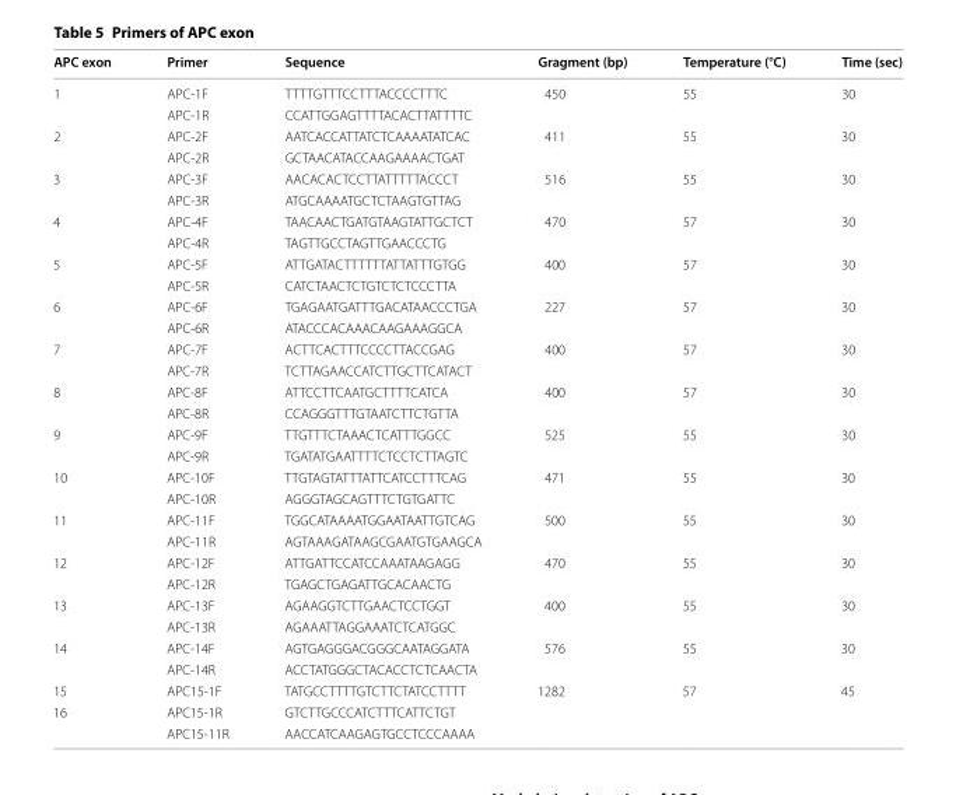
<table><thead><tr><td>APC exon</td><td>Primer</td><td>Sequence</td><td>Gragment (bp)</td><td>Temperature (°C)</td><td>Time (sec)</td></tr></thead><tbody><tr><td rowspan="2">1</td><td>APC-1F</td><td>TTTTGTTTCCTTTACCCCTTTC</td><td rowspan="2">450</td><td rowspan="2">55</td><td rowspan="2">30</td></tr><tr><td>APC-1R</td><td>CCATTGGAGTTTTACACTTATTTTC</td></tr><tr><td rowspan="2">2</td><td>APC-2F</td><td>AATCACCATTATCTCAAAATATCAC</td><td rowspan="2">411</td><td rowspan="2">55</td><td rowspan="2">30</td></tr><tr><td>APC-2R</td><td>GCTAACATACCAAGAAAACTGAT</td></tr><tr><td rowspan="2">3</td><td>APC-3F</td><td>AACACACTCCTTATTTTTACCCT</td><td rowspan="2">516</td><td rowspan="2">55</td><td rowspan="2">30</td></tr><tr><td>APC-3R</td><td>ATGCAAAATGCTCTAAGTGTTAG</td></tr><tr><td rowspan="2">4</td><td>APC-4F</td><td>TAACAACTGATGTAAGTATTGCTCT</td><td rowspan="2">470</td><td rowspan="2">57</td><td rowspan="2">30</td></tr><tr><td>APC-4R</td><td>TAGTTGCCTAGTTGAACCCTG</td></tr><tr><td rowspan="2">5</td><td>APC-5F</td><td>ATTGATACTTTTTTATTATTTGTGG</td><td rowspan="2">400</td><td rowspan="2">57</td><td rowspan="2">30</td></tr><tr><td>APC-5R</td><td>CATCTAACTCTGTCTCTCCCTTA</td></tr><tr><td rowspan="2">6</td><td>APC-6F</td><td>TGAGAATGATTTGACATAACCCTGA</td><td rowspan="2">227</td><td rowspan="2">57</td><td rowspan="2">30</td></tr><tr><td>APC-6R</td><td>ATACCCACAAACAAGAAAGGCA</td></tr><tr><td rowspan="2">7</td><td>APC-7F</td><td>ACTTCACTTTCCCCTTACCGAG</td><td rowspan="2">400</td><td rowspan="2">57</td><td rowspan="2">30</td></tr><tr><td>APC-7R</td><td>TCTTAGAACCATCTTGCTTCATACT</td></tr><tr><td rowspan="2">8</td><td>APC-8F</td><td>ATTCCTTCAATGCTTTTCATCA</td><td rowspan="2">400</td><td rowspan="2">57</td><td rowspan="2">30</td></tr><tr><td>APC-8R</td><td>CCAGGGTTTGTAATCTTCTGTTA</td></tr><tr><td rowspan="2">9</td><td>APC-9F</td><td>TTGTTTCTAAACTCATTTGGCC</td><td rowspan="2">525</td><td rowspan="2">55</td><td rowspan="2">30</td></tr><tr><td>APC-9R</td><td>TGATATGAATTTTCTCCTCTTAGTC</td></tr><tr><td rowspan="2">10</td><td>APC-10F</td><td>TTGTAGTATTTATTCATCCTTTCAG</td><td rowspan="2">471</td><td rowspan="2">55</td><td rowspan="2">30</td></tr><tr><td>APC-10R</td><td>AGGGTAGCAGTTTCTGTGATTC</td></tr><tr><td rowspan="2">11</td><td>APC-11F</td><td>TGGCATAAAATGGAATAATTGTCAG</td><td rowspan="2">500</td><td rowspan="2">55</td><td rowspan="2">30</td></tr><tr><td>APC-11R</td><td>AGTAAAGATAAGCGAATGTGAAGCA</td></tr><tr><td rowspan="2">12</td><td>APC-12F</td><td>ATTGATTCCATCCAAATAAGAGG</td><td rowspan="2">470</td><td rowspan="2">55</td><td rowspan="2">30</td></tr><tr><td>APC-12R</td><td>TGAGCTGAGATTGCACAACTG</td></tr><tr><td rowspan="2">13</td><td>APC-13F</td><td>AGAAGGTCTTGAACTCCTGGT</td><td rowspan="2">400</td><td rowspan="2">55</td><td rowspan="2">30</td></tr><tr><td>APC-13R</td><td>AGAAATTAGGAAATCTCATGGC</td></tr><tr><td rowspan="2">14</td><td>APC-14F</td><td>AGTGAGGGACGGGCAATAGGATA</td><td rowspan="2">576</td><td rowspan="2">55</td><td rowspan="2">30</td></tr><tr><td>APC-14R</td><td>ACCTATGGGCTACACCTCTCAACTA</td></tr><tr><td>15</td><td>APC15-1F</td><td>TATGCCTTTTGTCTTCTATCCTTTT</td><td>1282</td><td>57</td><td>45</td></tr><tr><td rowspan="2">16</td><td>APC15-1R</td><td>GTCTTGCCCATCTTTCATTCTGT</td><td rowspan="2"></td><td rowspan="2"></td><td rowspan="2"></td></tr><tr><td>APC15-11R</td><td>AACCATCAAGAGTGCCTCCCAAAA</td></tr></tbody></table>